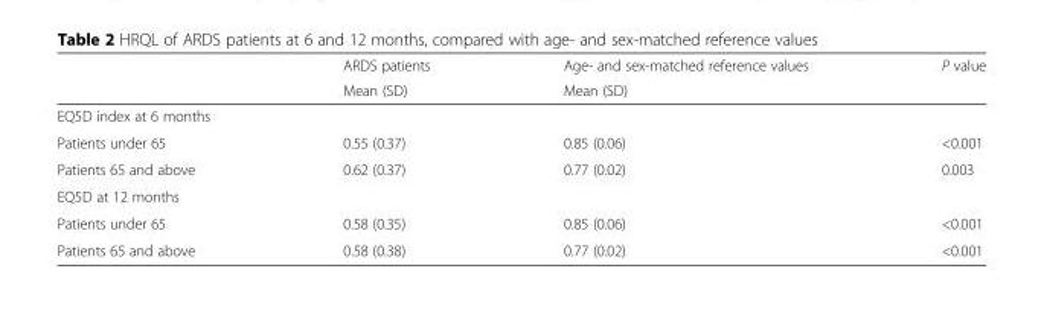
<table><thead><tr><td rowspan="2"></td><td rowspan="2">ARDS patients Mean (SD)</td><td rowspan="2">Age- and sex-matched reference values Mean (SD)</td><td rowspan="2">P value</td></tr><tr></tr></thead><tbody><tr><td colspan="4">EQ5D index at 6 months</td></tr><tr><td>Patients under 65</td><td>0.55 (0.37)</td><td>0.85 (0.06)</td><td>&lt;0.001</td></tr><tr><td>Patients 65 and above</td><td>0.62 (0.37)</td><td>0.77 (0.02)</td><td>0.003</td></tr><tr><td colspan="4">EQ5D at 12 months</td></tr><tr><td>Patients under 65</td><td>0.58 (0.35)</td><td>0.85 (0.06)</td><td>&lt;0.001</td></tr><tr><td>Patients 65 and above</td><td>0.58 (0.38)</td><td>0.77 (0.02)</td><td>&lt;0.001</td></tr></tbody></table>